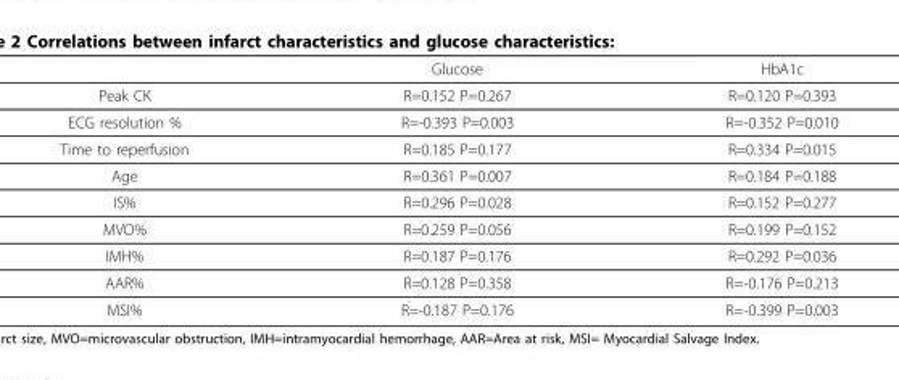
<table><thead><tr><td></td><td>Glucose</td><td>HbA1c</td></tr></thead><tbody><tr><td>Peak CK</td><td>R=0.152 P=0.267</td><td>R=0.120 P=0.393</td></tr><tr><td>ECG resolution %</td><td>R=-0.393 P=0.003</td><td>R=-0.352 P=0.010</td></tr><tr><td>Time to reperfusion</td><td>R=0.185 P=0.177</td><td>R=0.334 P=0.015</td></tr><tr><td>Age</td><td>R=0.361 P=0.007</td><td>R=0.184 P=0.188</td></tr><tr><td>IS%</td><td>R=0.296 P=0.028</td><td>R=0.152 P=0.277</td></tr><tr><td>MVO%</td><td>R=0.259 P=0.056</td><td>R=0.199 P=0.152</td></tr><tr><td>IMH%</td><td>R=0.187 P=0.176</td><td>R=0.292 P=0.036</td></tr><tr><td>AAR%</td><td>R=0.128 P=0.358</td><td>R=-0.176 P=0.213</td></tr><tr><td>MSI%</td><td>R=-0.187 P=0.176</td><td>R=-0.399 P=0.003</td></tr></tbody></table>